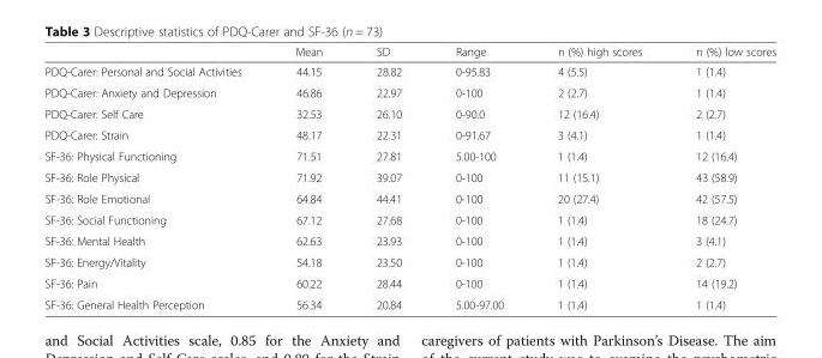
<table><thead><tr><td></td><td>Mean</td><td>SD</td><td>Range</td><td>n (%) high scores</td><td>n (%) low scores</td></tr></thead><tbody><tr><td>PDQ-Carer: Personal and Social Activities</td><td>44.15</td><td>28.82</td><td>0-95.83</td><td>4 (5.5)</td><td>1 (1.4)</td></tr><tr><td>PDQ-Carer: Anxiety and Depression</td><td>46.86</td><td>22.97</td><td>0-100</td><td>2 (2.7)</td><td>1 (1.4)</td></tr><tr><td>PDQ-Carer: Self Care</td><td>32.53</td><td>26.10</td><td>0-90.0</td><td>12 (16.4)</td><td>2 (2.7)</td></tr><tr><td>PDQ-Carer: Strain</td><td>48.17</td><td>22.31</td><td>0-91.67</td><td>3 (4.1)</td><td>1 (1.4)</td></tr><tr><td>SF-36: Physical Functioning</td><td>71.51</td><td>27.81</td><td>5.00-100</td><td>1 (1.4)</td><td>12 (16.4)</td></tr><tr><td>SF-36: Role Physical</td><td>71.92</td><td>39.07</td><td>0-100</td><td>11 (15.1)</td><td>43 (58.9)</td></tr><tr><td>SF-36: Role Emotional</td><td>64.84</td><td>44.41</td><td>0-100</td><td>20 (27.4)</td><td>42 (57.5)</td></tr><tr><td>SF-36: Social Functioning</td><td>67.12</td><td>27.68</td><td>0-100</td><td>1 (1.4)</td><td>18 (24.7)</td></tr><tr><td>SF-36: Mental Health</td><td>62.63</td><td>23.93</td><td>0-100</td><td>1 (1.4)</td><td>3 (4.1)</td></tr><tr><td>SF-36: Energy/Vitality</td><td>54.18</td><td>23.50</td><td>0-100</td><td>1 (1.4)</td><td>2 (2.7)</td></tr><tr><td>SF-36: Pain</td><td>60.22</td><td>28.44</td><td>0-100</td><td>1 (1.4)</td><td>14 (19.2)</td></tr><tr><td>SF-36: General Health Perception</td><td>56.34</td><td>20.84</td><td>5.00-97.00</td><td>1 (1.4)</td><td>1 (1.4)</td></tr></tbody></table>